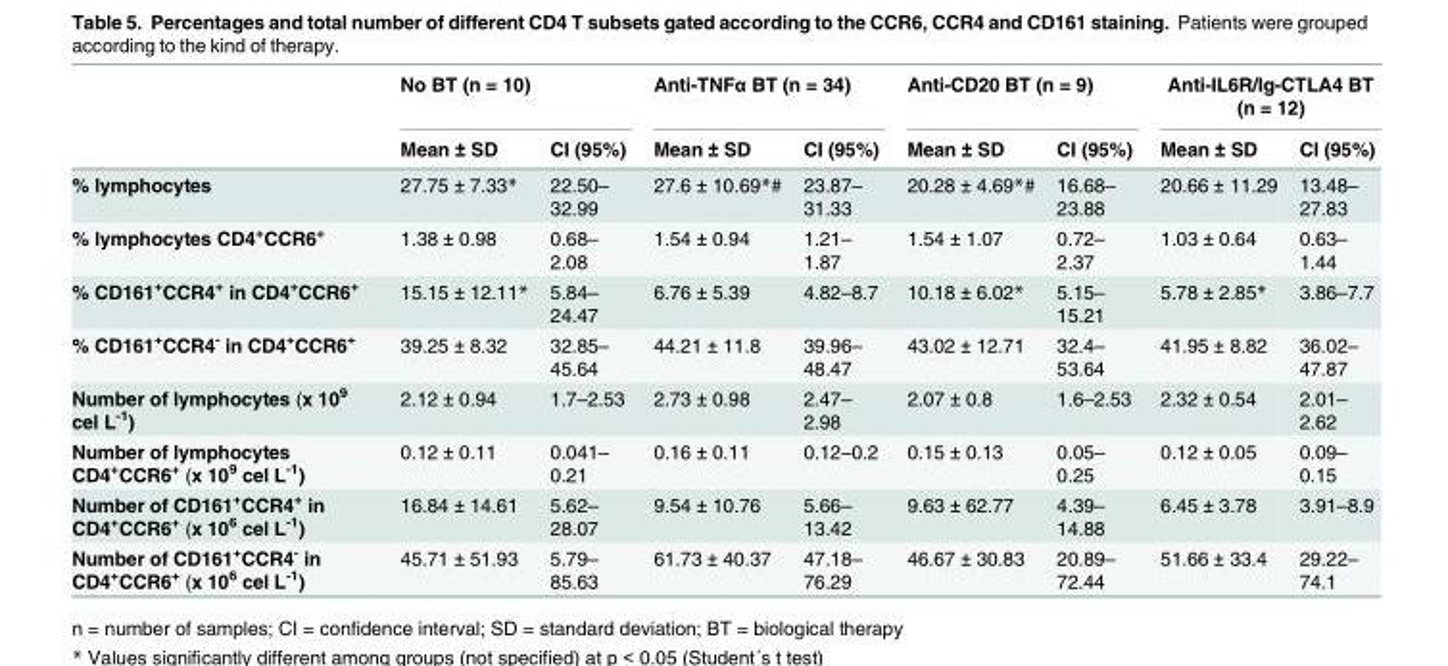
<table><thead><tr><td rowspan="2"></td><td colspan="2">No BT (n = 10)</td><td colspan="2">Anti-TNFα BT (n = 34)</td><td colspan="2">Anti-CD20 BT (n = 9)</td><td colspan="2">Anti-IL6R/Ig-CTLA4 BT (n = 12)</td></tr><tr><td>Mean ± SD</td><td>CI (95%)</td><td>Mean ± SD</td><td>CI (95%)</td><td>Mean ± SD</td><td>CI (95%)</td><td>Mean ± SD</td><td>CI (95%)</td></tr></thead><tbody><tr><td>% lymphocytes</td><td>27.75 ± 7.33*</td><td>22.50– 32.99</td><td>27.6 ± 10.69*#</td><td>23.87– 31.33</td><td>20.28 ± 4.69*#</td><td>16.68– 23.88</td><td>20.66 ± 11.29</td><td>13.48– 27.83</td></tr><tr><td>% lymphocytes CD4<sup>+</sup>CCR6<sup>+</sup></td><td>1.38 ± 0.98</td><td>0.68– 2.08</td><td>1.54 ± 0.94</td><td>1.21– 1.87</td><td>1.54 ± 1.07</td><td>0.72– 2.37</td><td>1.03 ± 0.64</td><td>0.63– 1.44</td></tr><tr><td>% CD161<sup>+</sup>CCR4<sup>+</sup> in CD4<sup>+</sup>CCR6<sup>+</sup></td><td>15.15 ± 12.11*</td><td>5.84– 24.47</td><td>6.76 ± 5.39</td><td>4.82–8.7</td><td>10.18 ± 6.02*</td><td>5.15– 15.21</td><td>5.78 ± 2.85*</td><td>3.86–7.7</td></tr><tr><td>% CD161<sup>+</sup>CCR4<sup>-</sup> in CD4<sup>+</sup>CCR6<sup>+</sup></td><td>39.25 ± 8.32</td><td>32.85– 45.64</td><td>44.21 ± 11.8</td><td>39.96– 48.47</td><td>43.02 ± 12.71</td><td>32.4– 53.64</td><td>41.95 ± 8.82</td><td>36.02– 47.87</td></tr><tr><td>Number of lymphocytes (x 10<sup>9</sup> cel L<sup>-1</sup>)</td><td>2.12 ± 0.94</td><td>1.7–2.53</td><td>2.73 ± 0.98</td><td>2.47– 2.98</td><td>2.07 ± 0.8</td><td>1.6–2.53</td><td>2.32 ± 0.54</td><td>2.01– 2.62</td></tr><tr><td>Number of lymphocytes CD4<sup>+</sup>CCR6<sup>+</sup> (x 10<sup>9</sup> cel L<sup>-1</sup>)</td><td>0.12 ± 0.11</td><td>0.041– 0.21</td><td>0.16 ± 0.11</td><td>0.12–0.2</td><td>0.15 ± 0.13</td><td>0.05– 0.25</td><td>0.12 ± 0.05</td><td>0.09– 0.15</td></tr><tr><td>Number of CD161+CCR4+ in CD4+CCR6+ (x 106 cel L-1)</td><td>16.84 ± 14.61</td><td>5.62– 28.07</td><td>9.54 ± 10.76</td><td>5.66– 13.42</td><td>9.63 ± 62.77</td><td>4.39– 14.88</td><td>6.45 ± 3.78</td><td>3.91–8.9</td></tr><tr><td>Number of CD161+CCR4- in CD4+CCR6+ (x 106 cel L-1)</td><td>45.71 ± 51.93</td><td>5.79– 85.63</td><td>61.73 ± 40.37</td><td>47.18– 76.29</td><td>46.67 ± 30.83</td><td>20.89– 72.44</td><td>51.66 ± 33.4</td><td>29.22– 74.1</td></tr></tbody></table>